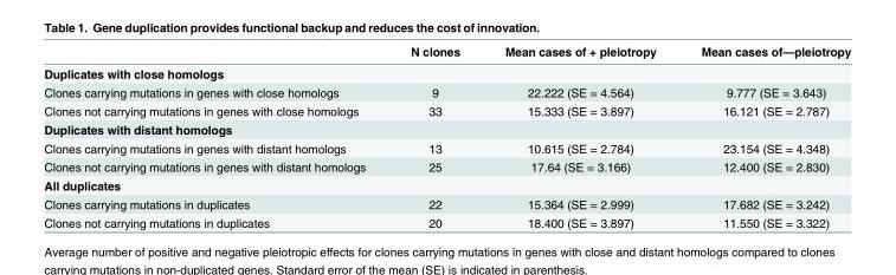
<table><thead><tr><td></td><td>N clones</td><td>Mean cases of + pleiotropy</td><td>Mean cases of—pleiotropy</td></tr></thead><tbody><tr><td colspan="4">Duplicates with close homologs</td></tr><tr><td>Clones carrying mutations in genes with close homologs</td><td>9</td><td>22.222 (SE = 4.564)</td><td>9.777 (SE = 3.643)</td></tr><tr><td>Clones not carrying mutations in genes with close homologs</td><td>33</td><td>15.333 (SE = 3.897)</td><td>16.121 (SE = 2.787)</td></tr><tr><td colspan="4">Duplicates with distant homologs</td></tr><tr><td>Clones carrying mutations in genes with distant homologs</td><td>13</td><td>10.615 (SE = 2.784)</td><td>23.154 (SE = 4.348)</td></tr><tr><td>Clones not carrying mutations in genes with distant homologs</td><td>25</td><td>17.64 (SE = 3.166)</td><td>12.400 (SE = 2.830)</td></tr><tr><td colspan="4">All duplicates</td></tr><tr><td>Clones carrying mutations in duplicates</td><td>22</td><td>15.364 (SE = 2.999)</td><td>17.682 (SE = 3.242)</td></tr><tr><td>Clones not carrying mutations in duplicates</td><td>20</td><td>18.400 (SE = 3.897)</td><td>11.550 (SE = 3.322)</td></tr></tbody></table>